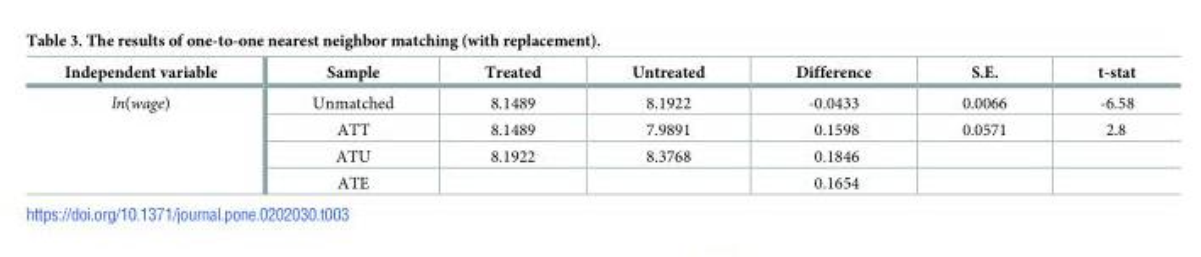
<table><thead><tr><td>Independent variable</td><td>Sample</td><td>Treated</td><td>Untreated</td><td>Difference</td><td>S.E.</td><td>t-stat</td></tr></thead><tbody><tr><td rowspan="4">ln(wage)</td><td>Unmatched</td><td>8.1489</td><td>8.1922</td><td>-0.0433</td><td>0.0066</td><td>-6.58</td></tr><tr><td>ATT</td><td>8.1489</td><td>7.9891</td><td>0.1598</td><td>0.0571</td><td>2.8</td></tr><tr><td>ATU</td><td>8.1922</td><td>8.3768</td><td>0.1846</td><td></td><td></td></tr><tr><td>ATE</td><td></td><td></td><td>0.1654</td><td></td><td></td></tr></tbody></table>